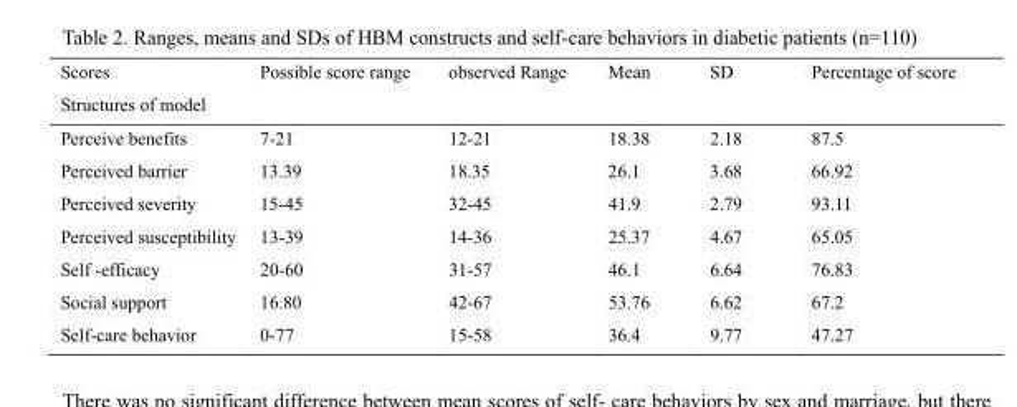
<table><thead><tr><td>Scores Structures of model</td><td>Possible score range</td><td>observed Range</td><td>Mean</td><td>SD</td><td>Percentage of score</td></tr></thead><tbody><tr><td>Perceive benefits</td><td>7-21</td><td>12-21</td><td>18.38</td><td>2.18</td><td>87.5</td></tr><tr><td>Perceived barrier</td><td>13.39</td><td>18.35</td><td>26.1</td><td>3.68</td><td>66.92</td></tr><tr><td>Perceived severity</td><td>15-45</td><td>32-45</td><td>41.9</td><td>2.79</td><td>93.11</td></tr><tr><td>Perceived susceptibility</td><td>13-39</td><td>14-36</td><td>25.37</td><td>4.67</td><td>65.05</td></tr><tr><td>Self -efficacy</td><td>20-60</td><td>31-57</td><td>46.1</td><td>6.64</td><td>76.83</td></tr><tr><td>Social support</td><td>16.80</td><td>42-67</td><td>53.76</td><td>6.62</td><td>67.2</td></tr><tr><td>Self-care behavior</td><td>0-77</td><td>15-58</td><td>36.4</td><td>9.77</td><td>47.27</td></tr></tbody></table>